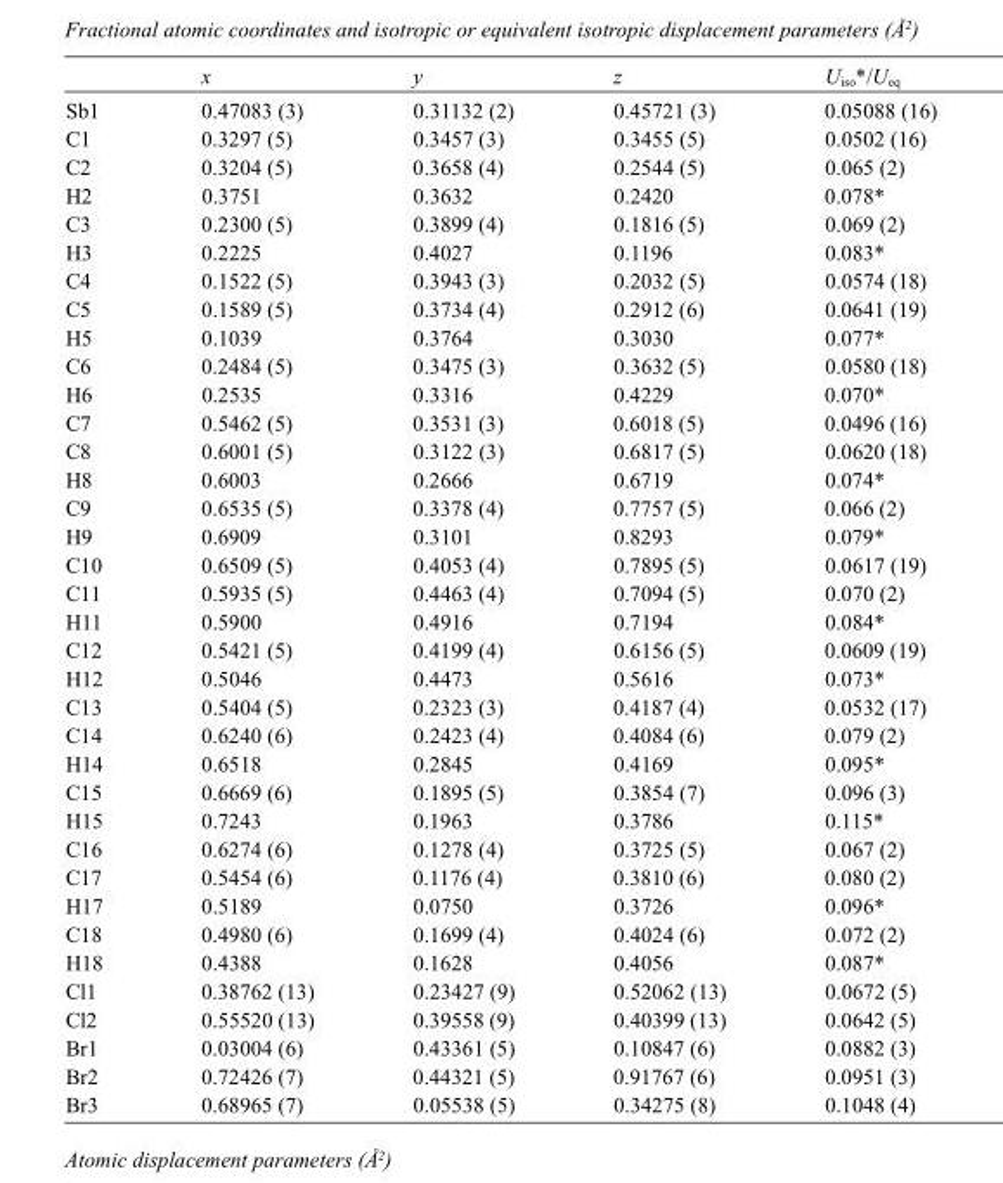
<table><thead><tr><td></td><td>x</td><td>y</td><td>z</td><td>U<sub>iso</sub>*/U<sub>eq</sub></td></tr></thead><tbody><tr><td>Sb1</td><td>0.47083 (3)</td><td>0.31132 (2)</td><td>0.45721 (3)</td><td>0.05088 (16)</td></tr><tr><td>C1</td><td>0.3297 (5)</td><td>0.3457 (3)</td><td>0.3455 (5)</td><td>0.0502 (16)</td></tr><tr><td>C2</td><td>0.3204 (5)</td><td>0.3658 (4)</td><td>0.2544 (5)</td><td>0.065 (2)</td></tr><tr><td>H2</td><td>0.3751</td><td>0.3632</td><td>0.2420</td><td>0.078*</td></tr><tr><td>C3</td><td>0.2300 (5)</td><td>0.3899 (4)</td><td>0.1816 (5)</td><td>0.069 (2)</td></tr><tr><td>H3</td><td>0.2225</td><td>0.4027</td><td>0.1196</td><td>0.083*</td></tr><tr><td>C4</td><td>0.1522 (5)</td><td>0.3943 (3)</td><td>0.2032 (5)</td><td>0.0574 (18)</td></tr><tr><td>C5</td><td>0.1589 (5)</td><td>0.3734 (4)</td><td>0.2912 (6)</td><td>0.0641 (19)</td></tr><tr><td>H5</td><td>0.1039</td><td>0.3764</td><td>0.3030</td><td>0.077*</td></tr><tr><td>C6</td><td>0.2484 (5)</td><td>0.3475 (3)</td><td>0.3632 (5)</td><td>0.0580 (18)</td></tr><tr><td>H6</td><td>0.2535</td><td>0.3316</td><td>0.4229</td><td>0.070*</td></tr><tr><td>C7</td><td>0.5462 (5)</td><td>0.3531 (3)</td><td>0.6018 (5)</td><td>0.0496 (16)</td></tr><tr><td>C8</td><td>0.6001 (5)</td><td>0.3122 (3)</td><td>0.6817 (5)</td><td>0.0620 (18)</td></tr><tr><td>H8</td><td>0.6003</td><td>0.2666</td><td>0.6719</td><td>0.074*</td></tr><tr><td>C9</td><td>0.6535 (5)</td><td>0.3378 (4)</td><td>0.7757 (5)</td><td>0.066 (2)</td></tr><tr><td>H9</td><td>0.6909</td><td>0.3101</td><td>0.8293</td><td>0.079*</td></tr><tr><td>C10</td><td>0.6509 (5)</td><td>0.4053 (4)</td><td>0.7895 (5)</td><td>0.0617 (19)</td></tr><tr><td>C11</td><td>0.5935 (5)</td><td>0.4463 (4)</td><td>0.7094 (5)</td><td>0.070 (2)</td></tr><tr><td>H11</td><td>0.5900</td><td>0.4916</td><td>0.7194</td><td>0.084*</td></tr><tr><td>C12</td><td>0.5421 (5)</td><td>0.4199 (4)</td><td>0.6156 (5)</td><td>0.0609 (19)</td></tr><tr><td>H12</td><td>0.5046</td><td>0.4473</td><td>0.5616</td><td>0.073*</td></tr><tr><td>C13</td><td>0.5404 (5)</td><td>0.2323 (3)</td><td>0.4187 (4)</td><td>0.0532 (17)</td></tr><tr><td>C14</td><td>0.6240 (6)</td><td>0.2423 (4)</td><td>0.4084 (6)</td><td>0.079 (2)</td></tr><tr><td>H14</td><td>0.6518</td><td>0.2845</td><td>0.4169</td><td>0.095*</td></tr><tr><td>C15</td><td>0.6669 (6)</td><td>0.1895 (5)</td><td>0.3854 (7)</td><td>0.096 (3)</td></tr><tr><td>H15</td><td>0.7243</td><td>0.1963</td><td>0.3786</td><td>0.115*</td></tr><tr><td>C16</td><td>0.6274 (6)</td><td>0.1278 (4)</td><td>0.3725 (5)</td><td>0.067 (2)</td></tr><tr><td>C17</td><td>0.5454 (6)</td><td>0.1176 (4)</td><td>0.3810 (6)</td><td>0.080 (2)</td></tr><tr><td>H17</td><td>0.5189</td><td>0.0750</td><td>0.3726</td><td>0.096*</td></tr><tr><td>C18</td><td>0.4980 (6)</td><td>0.1699 (4)</td><td>0.4024 (6)</td><td>0.072 (2)</td></tr><tr><td>H18</td><td>0.4388</td><td>0.1628</td><td>0.4056</td><td>0.087*</td></tr><tr><td>Cl1</td><td>0.38762 (13)</td><td>0.23427 (9)</td><td>0.52062 (13)</td><td>0.0672 (5)</td></tr><tr><td>Cl2</td><td>0.55520 (13)</td><td>0.39558 (9)</td><td>0.40399 (13)</td><td>0.0642 (5)</td></tr><tr><td>Br1</td><td>0.03004 (6)</td><td>0.43361 (5)</td><td>0.10847 (6)</td><td>0.0882 (3)</td></tr><tr><td>Br2</td><td>0.72426 (7)</td><td>0.44321 (5)</td><td>0.91767 (6)</td><td>0.0951 (3)</td></tr><tr><td>Br3</td><td>0.68965 (7)</td><td>0.05538 (5)</td><td>0.34275 (8)</td><td>0.1048 (4)</td></tr></tbody></table>